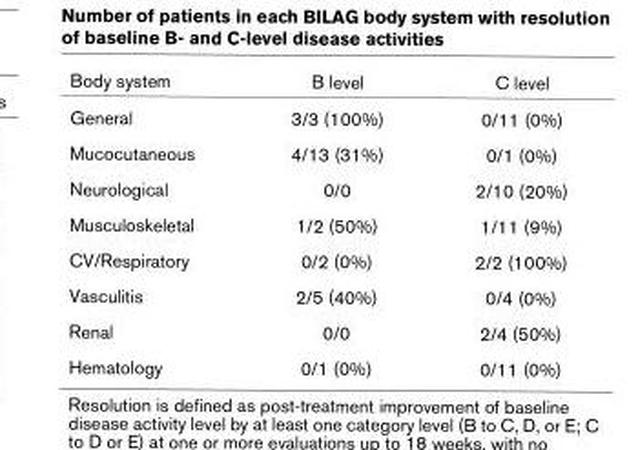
<table><thead><tr><td>Body system</td><td>B level</td><td>C level</td></tr></thead><tbody><tr><td>General</td><td>3/3 (100%)</td><td>0/11 (0%)</td></tr><tr><td>Mucocutaneous</td><td>4/13 (31%)</td><td>0/1 (0%)</td></tr><tr><td>Neurological</td><td>0/0</td><td>2/10 (20%)</td></tr><tr><td>Musculoskeletal</td><td>1/2 (50%)</td><td>1/11 (9%)</td></tr><tr><td>CV/Respiratory</td><td>0/2 (0%)</td><td>2/2 (100%)</td></tr><tr><td>Vasculitis</td><td>2/5 (40%)</td><td>0/4 (0%)</td></tr><tr><td>Renal</td><td>0/0</td><td>2/4 (50%)</td></tr><tr><td>Hematology</td><td>0/1 (0%)</td><td>0/11 (0%)</td></tr></tbody></table>